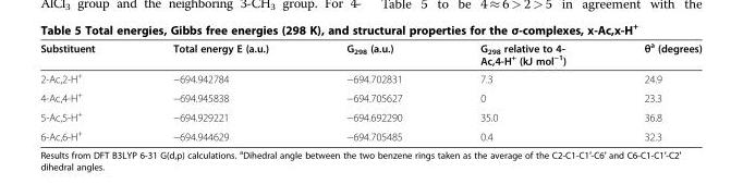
<table><thead><tr><td>Substituent</td><td>Total energy E (a.u.)</td><td>G<sub>298</sub> (a.u.)</td><td>G<sub>298</sub> relative to 4- Ac,4-H<sup>+</sup> (kJ mol<sup>−1</sup>)</td><td>θ<sup>a</sup> (degrees)</td></tr></thead><tbody><tr><td>2-Ac,2-H<sup>+</sup></td><td>−694.942784</td><td>−694.702831</td><td>7.3</td><td>24.9</td></tr><tr><td>4-Ac,4-H<sup>+</sup></td><td>−694.945838</td><td>−694.705627</td><td>0</td><td>23.3</td></tr><tr><td>5-Ac,5-H<sup>+</sup></td><td>−694.929221</td><td>−694.692290</td><td>35.0</td><td>36.8</td></tr><tr><td>6-Ac,6-H<sup>+</sup></td><td>−694.944629</td><td>−694.705485</td><td>0.4</td><td>32.3</td></tr></tbody></table>